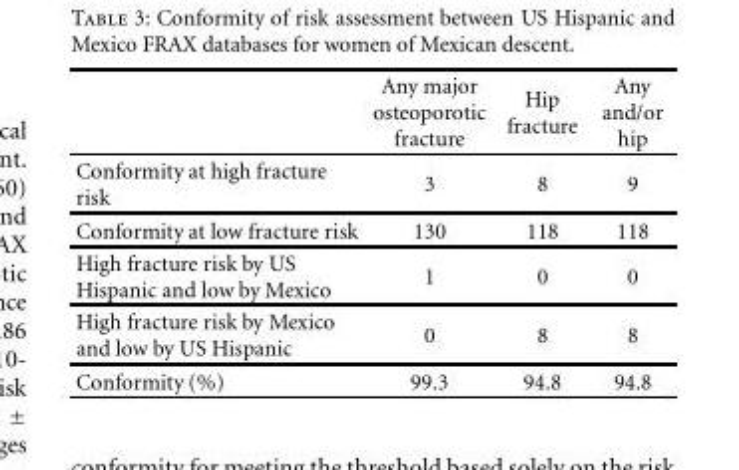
<table><thead><tr><td></td><td>Any major osteoporotic fracture</td><td>Hip fracture</td><td>Any and/or hip</td></tr></thead><tbody><tr><td>Conformity at high fracture risk</td><td>3</td><td>8</td><td>9</td></tr><tr><td>Conformity at low fracture risk</td><td>130</td><td>118</td><td>118</td></tr><tr><td>High fracture risk by US Hispanic and low by Mexico</td><td>1</td><td>0</td><td>0</td></tr><tr><td>High fracture risk by Mexico and low by US Hispanic</td><td>0</td><td>8</td><td>8</td></tr><tr><td>Conformity (%)</td><td>99.3</td><td>94.8</td><td>94.8</td></tr></tbody></table>